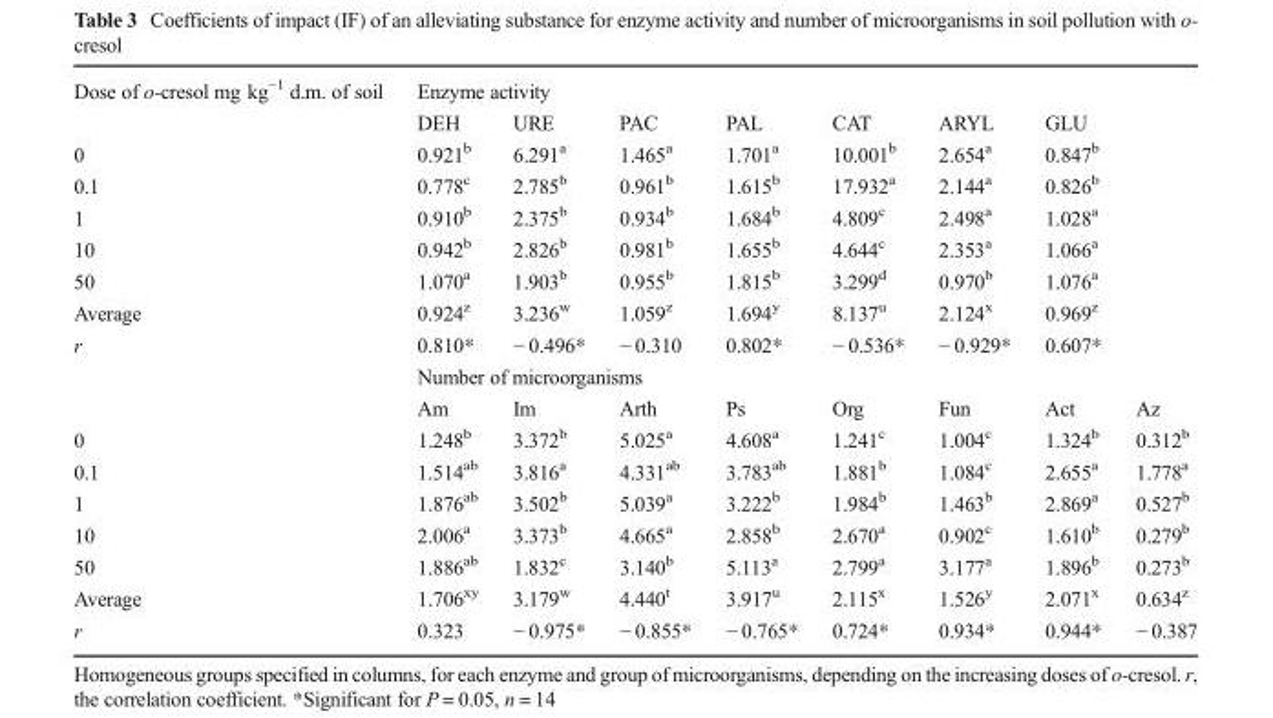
<table><tbody><tr><td rowspan="2">Dose of o-cresol mg kg<sup>−1</sup> d.m. of soil</td><td colspan="8">Enzyme activity</td></tr><tr><td>DEH</td><td>URE</td><td>PAC</td><td>PAL</td><td>CAT</td><td>ARYL</td><td colspan="2">GLU</td></tr><tr><td>0</td><td>0.921<sup>b</sup></td><td>6.291<sup>a</sup></td><td>1.465<sup>a</sup></td><td>1.701<sup>a</sup></td><td>10.001<sup>b</sup></td><td>2.654<sup>a</sup></td><td colspan="2">0.847<sup>b</sup></td></tr><tr><td>0.1</td><td>0.778<sup>c</sup></td><td>2.785<sup>b</sup></td><td>0.961<sup>b</sup></td><td>1.615<sup>b</sup></td><td>17.932<sup>a</sup></td><td>2.144<sup>a</sup></td><td colspan="2">0.826<sup>b</sup></td></tr><tr><td>1</td><td>0.910<sup>b</sup></td><td>2.375<sup>b</sup></td><td>0.934<sup>b</sup></td><td>1.684<sup>b</sup></td><td>4.809<sup>c</sup></td><td>2.498<sup>a</sup></td><td colspan="2">1.028<sup>a</sup></td></tr><tr><td>10</td><td>0.942<sup>b</sup></td><td>2.826<sup>b</sup></td><td>0.981<sup>b</sup></td><td>1.655<sup>b</sup></td><td>4.644<sup>c</sup></td><td>2.353<sup>a</sup></td><td colspan="2">1.066<sup>a</sup></td></tr><tr><td>50</td><td>1.070<sup>a</sup></td><td>1.903<sup>b</sup></td><td>0.955<sup>b</sup></td><td>1.815<sup>b</sup></td><td>3.299<sup>d</sup></td><td>0.970<sup>b</sup></td><td colspan="2">1.076<sup>a</sup></td></tr><tr><td>Average</td><td>0.924<sup>z</sup></td><td>3.236<sup>w</sup></td><td>1.059<sup>z</sup></td><td>1.694<sup>y</sup></td><td>8.137<sup>u</sup></td><td>2.124<sup>x</sup></td><td colspan="2">0.969<sup>z</sup></td></tr><tr><td rowspan="3">r</td><td>0.810*</td><td>− 0.496*</td><td>− 0.310</td><td>0.802*</td><td>− 0.536*</td><td>− 0.929*</td><td colspan="2">0.607*</td></tr><tr><td colspan="8">Number of microorganisms</td></tr><tr><td>Am</td><td>Im</td><td>Arth</td><td>Ps</td><td>Org</td><td>Fun</td><td>Act</td><td>Az</td></tr><tr><td>0</td><td>1.248<sup>b</sup></td><td>3.372<sup>b</sup></td><td>5.025<sup>a</sup></td><td>4.608<sup>a</sup></td><td>1.241<sup>c</sup></td><td>1.004<sup>c</sup></td><td>1.324<sup>b</sup></td><td>0.312<sup>b</sup></td></tr><tr><td>0.1</td><td>1.514<sup>ab</sup></td><td>3.816<sup>a</sup></td><td>4.331<sup>ab</sup></td><td>3.783<sup>ab</sup></td><td>1.881<sup>b</sup></td><td>1.084<sup>c</sup></td><td>2.655<sup>a</sup></td><td>1.778<sup>a</sup></td></tr><tr><td>1</td><td>1.876<sup>ab</sup></td><td>3.502<sup>b</sup></td><td>5.039<sup>a</sup></td><td>3.222<sup>b</sup></td><td>1.984<sup>b</sup></td><td>1.463<sup>b</sup></td><td>2.869<sup>a</sup></td><td>0.527<sup>b</sup></td></tr><tr><td>10</td><td>2.006<sup>a</sup></td><td>3.373<sup>b</sup></td><td>4.665<sup>a</sup></td><td>2.858<sup>b</sup></td><td>2.670<sup>a</sup></td><td>0.902<sup>c</sup></td><td>1.610<sup>b</sup></td><td>0.279<sup>b</sup></td></tr><tr><td>50</td><td>1.886<sup>ab</sup></td><td>1.832<sup>c</sup></td><td>3.140<sup>b</sup></td><td>5.113<sup>a</sup></td><td>2.799<sup>a</sup></td><td>3.177<sup>a</sup></td><td>1.896<sup>b</sup></td><td>0.273<sup>b</sup></td></tr><tr><td>Average</td><td>1.706<sup>xy</sup></td><td>3.179<sup>w</sup></td><td>4.440<sup>t</sup></td><td>3.917<sup>u</sup></td><td>2.115<sup>x</sup></td><td>1.526<sup>y</sup></td><td>2.071<sup>x</sup></td><td>0.634<sup>z</sup></td></tr><tr><td>r</td><td>0.323</td><td>− 0.975*</td><td>− 0.855*</td><td>− 0.765*</td><td>0.724*</td><td>0.934*</td><td>0.944*</td><td>− 0.387</td></tr></tbody></table>